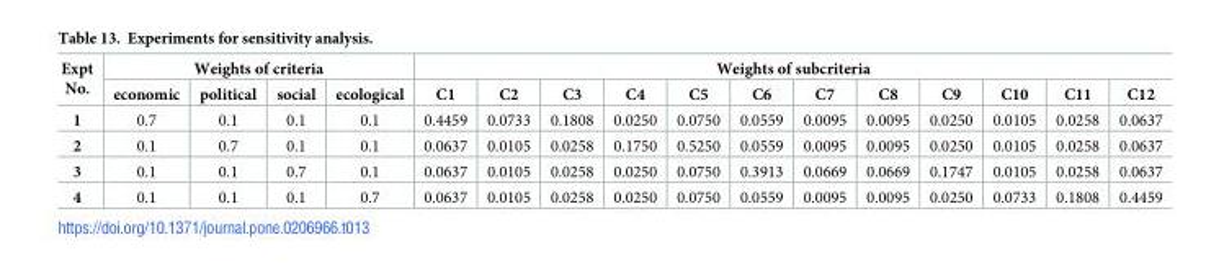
<table><thead><tr><td rowspan="2">Expt No.</td><td colspan="4">Weights of criteria</td><td colspan="12">Weights of subcriteria</td></tr><tr><td>economic</td><td>political</td><td>social</td><td>ecological</td><td>C1</td><td>C2</td><td>C3</td><td>C4</td><td>C5</td><td>C6</td><td>C7</td><td>C8</td><td>C9</td><td>C10</td><td>C11</td><td>C12</td></tr></thead><tbody><tr><td>1</td><td>0.7</td><td>0.1</td><td>0.1</td><td>0.1</td><td>0.4459</td><td>0.0733</td><td>0.1808</td><td>0.0250</td><td>0.0750</td><td>0.0559</td><td>0.0095</td><td>0.0095</td><td>0.0250</td><td>0.0105</td><td>0.0258</td><td>0.0637</td></tr><tr><td>2</td><td>0.1</td><td>0.7</td><td>0.1</td><td>0.1</td><td>0.0637</td><td>0.0105</td><td>0.0258</td><td>0.1750</td><td>0.5250</td><td>0.0559</td><td>0.0095</td><td>0.0095</td><td>0.0250</td><td>0.0105</td><td>0.0258</td><td>0.0637</td></tr><tr><td>3</td><td>0.1</td><td>0.1</td><td>0.7</td><td>0.1</td><td>0.0637</td><td>0.0105</td><td>0.0258</td><td>0.0250</td><td>0.0750</td><td>0.3913</td><td>0.0669</td><td>0.0669</td><td>0.1747</td><td>0.0105</td><td>0.0258</td><td>0.0637</td></tr><tr><td>4</td><td>0.1</td><td>0.1</td><td>0.1</td><td>0.7</td><td>0.0637</td><td>0.0105</td><td>0.0258</td><td>0.0250</td><td>0.0750</td><td>0.0559</td><td>0.0095</td><td>0.0095</td><td>0.0250</td><td>0.0733</td><td>0.1808</td><td>0.4459</td></tr></tbody></table>